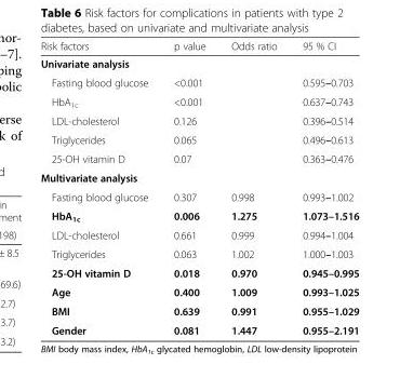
<table><thead><tr><td>Risk factors</td><td>p value</td><td>Odds ratio</td><td>95 % CI</td></tr></thead><tbody><tr><td colspan="4">Univariate analysis</td></tr><tr><td>Fasting blood glucose</td><td>&lt;0.001</td><td></td><td>0.595–0.703</td></tr><tr><td>HbA<sub>1c</sub></td><td>&lt;0.001</td><td></td><td>0.637–0.743</td></tr><tr><td>LDL-cholesterol</td><td>0.126</td><td></td><td>0.396–0.514</td></tr><tr><td>Triglycerides</td><td>0.065</td><td></td><td>0.496–0.613</td></tr><tr><td>25-OH vitamin D</td><td>0.07</td><td></td><td>0.363–0.476</td></tr><tr><td colspan="4">Multivariate analysis</td></tr><tr><td>Fasting blood glucose</td><td>0.307</td><td>0.998</td><td>0.993–1.002</td></tr><tr><td>HbA<sub>1c</sub></td><td>0.006</td><td>1.275</td><td>1.073–1.516</td></tr><tr><td>LDL-cholesterol</td><td>0.661</td><td>0.999</td><td>0.994–1.004</td></tr><tr><td>Triglycerides</td><td>0.063</td><td>1.002</td><td>1.000–1.003</td></tr><tr><td>25-OH vitamin D</td><td>0.018</td><td>0.970</td><td>0.945–0.995</td></tr><tr><td>Age</td><td>0.400</td><td>1.009</td><td>0.993–1.025</td></tr><tr><td>BMI</td><td>0.639</td><td>0.991</td><td>0.955–1.029</td></tr><tr><td>Gender</td><td>0.081</td><td>1.447</td><td>0.955–2.191</td></tr></tbody></table>